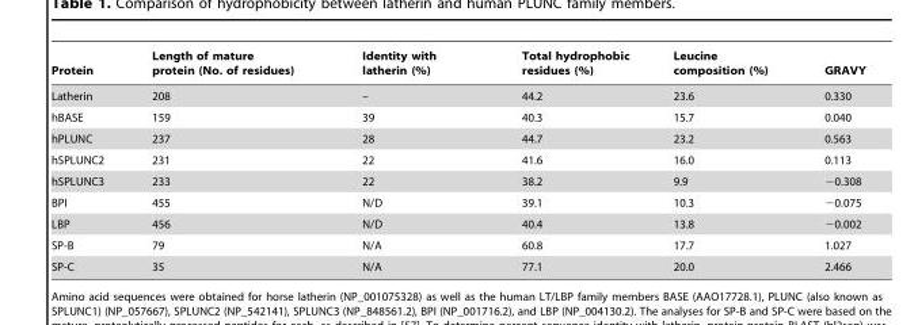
<table><thead><tr><td>Protein</td><td>Length of mature protein (No. of residues)</td><td>Identity with latherin (%)</td><td>Total hydrophobic residues (%)</td><td>Leucine composition (%)</td><td>GRAVY</td></tr></thead><tbody><tr><td>Latherin</td><td>208</td><td>–</td><td>44.2</td><td>23.6</td><td>0.330</td></tr><tr><td>hBASE</td><td>159</td><td>39</td><td>40.3</td><td>15.7</td><td>0.040</td></tr><tr><td>hPLUNC</td><td>237</td><td>28</td><td>44.7</td><td>23.2</td><td>0.563</td></tr><tr><td>hSPLUNC2</td><td>231</td><td>22</td><td>41.6</td><td>16.0</td><td>0.113</td></tr><tr><td>hSPLUNC3</td><td>233</td><td>22</td><td>38.2</td><td>9.9</td><td>−0.308</td></tr><tr><td>BPI</td><td>455</td><td>N/D</td><td>39.1</td><td>10.3</td><td>−0.075</td></tr><tr><td>LBP</td><td>456</td><td>N/D</td><td>40.4</td><td>13.8</td><td>−0.002</td></tr><tr><td>SP-B</td><td>79</td><td>N/A</td><td>60.8</td><td>17.7</td><td>1.027</td></tr><tr><td>SP-C</td><td>35</td><td>N/A</td><td>77.1</td><td>20.0</td><td>2.466</td></tr></tbody></table>